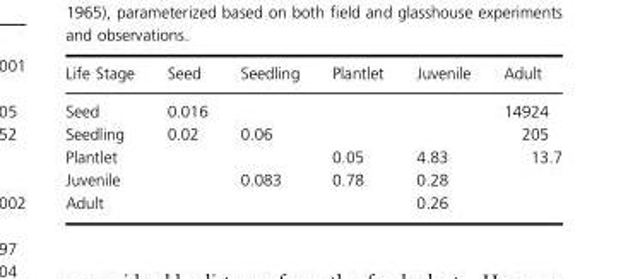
<table><thead><tr><td>Life Stage</td><td>Seed</td><td>Seedling</td><td>Plantlet</td><td>Juvenile</td><td>Adult</td></tr></thead><tbody><tr><td>Seed</td><td>0.016</td><td></td><td></td><td></td><td>14924</td></tr><tr><td>Seedling</td><td>0.02</td><td>0.06</td><td></td><td></td><td>205</td></tr><tr><td>Plantlet</td><td></td><td></td><td>0.05</td><td>4.83</td><td>13.7</td></tr><tr><td>Juvenile</td><td></td><td>0.083</td><td>0.78</td><td>0.28</td><td></td></tr><tr><td>Adult</td><td></td><td></td><td></td><td>0.26</td><td></td></tr></tbody></table>